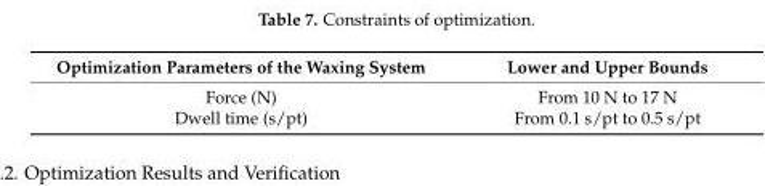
<table><thead><tr><td>Optimization Parameters of the Waxing System</td><td>Lower and Upper Bounds</td></tr></thead><tbody><tr><td>Force (N)</td><td>From 10 N to 17 N</td></tr><tr><td>Dwell time (s/pt)</td><td>From 0.1 s/pt to 0.5 s/pt</td></tr></tbody></table>